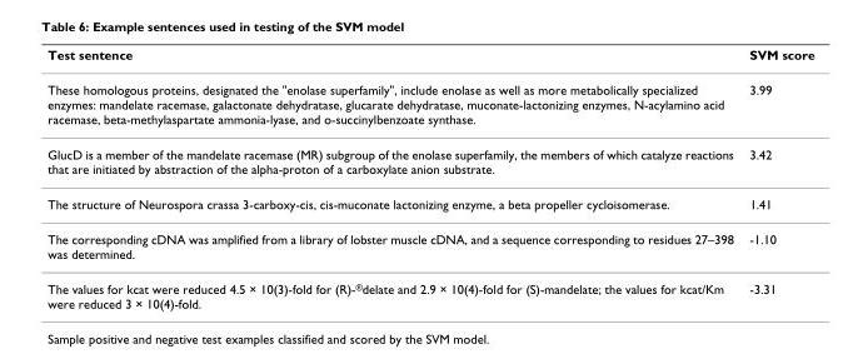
<table><thead><tr><td>Test sentence</td><td>SVM score</td></tr></thead><tbody><tr><td>These homologous proteins, designated the &quot;enolase superfamily&quot;, include enolase as well as more metabolically specialized enzymes: mandelate racemase, galactonate dehydratase, glucarate dehydratase, muconate-lactonizing enzymes, N-acylamino acid racemase, beta-methylaspartate ammonia-lyase, and o-succinylbenzoate synthase.</td><td>3.99</td></tr><tr><td>GlucD is a member of the mandelate racemase (MR) subgroup of the enolase superfamily, the members of which catalyze reactions that are initiated by abstraction of the alpha-proton of a carboxylate anion substrate.</td><td>3.42</td></tr><tr><td>The structure of Neurospora crassa 3-carboxy-cis, cis-muconate lactonizing enzyme, a beta propeller cycloisomerase.</td><td>1.41</td></tr><tr><td>The corresponding cDNA was amplified from a library of lobster muscle cDNA, and a sequence corresponding to residues 27–398 was determined.</td><td>-1.10</td></tr><tr><td>The values for kcat were reduced 4.5 × 10(3)-fold for (R)-<sup>®</sup>delate and 2.9 × 10(4)-fold for (S)-mandelate; the values for kcat/Km were reduced 3 × 10(4)-fold.</td><td>-3.31</td></tr></tbody></table>